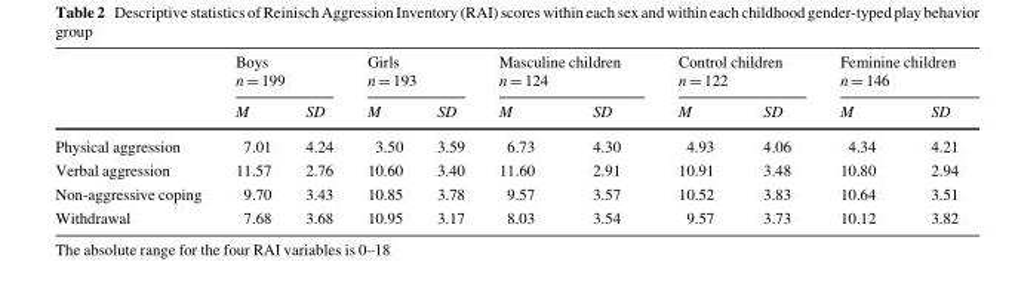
<table><thead><tr><td rowspan="2"></td><td colspan="2">Boys n = 199</td><td colspan="2">Girls n = 193</td><td colspan="2">Masculine children n = 124</td><td colspan="2">Control children n = 122</td><td colspan="2">Feminine children n = 146</td></tr><tr><td>M</td><td>SD</td><td>M</td><td>SD</td><td>M</td><td>SD</td><td>M</td><td>SD</td><td>M</td><td>SD</td></tr></thead><tbody><tr><td>Physical aggression</td><td>7.01</td><td>4.24</td><td>3.50</td><td>3.59</td><td>6.73</td><td>4.30</td><td>4.93</td><td>4.06</td><td>4.34</td><td>4.21</td></tr><tr><td>Verbal aggression</td><td>11.57</td><td>2.76</td><td>10.60</td><td>3.40</td><td>11.60</td><td>2.91</td><td>10.91</td><td>3.48</td><td>10.80</td><td>2.94</td></tr><tr><td>Non-aggressive coping</td><td>9.70</td><td>3.43</td><td>10.85</td><td>3.78</td><td>9.57</td><td>3.57</td><td>10.52</td><td>3.83</td><td>10.64</td><td>3.51</td></tr><tr><td>Withdrawal</td><td>7.68</td><td>3.68</td><td>10.95</td><td>3.17</td><td>8.03</td><td>3.54</td><td>9.57</td><td>3.73</td><td>10.12</td><td>3.82</td></tr></tbody></table>